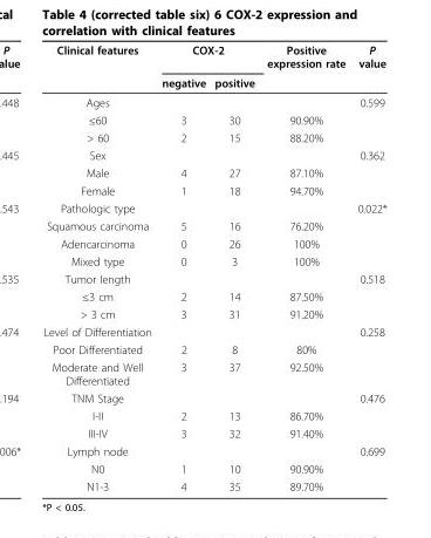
<table><thead><tr><td rowspan="2">Clinical features</td><td colspan="2">COX-2</td><td rowspan="2">Positive expression rate</td><td rowspan="2">P value</td></tr><tr><td>negative</td><td>positive</td></tr></thead><tbody><tr><td>Ages</td><td></td><td></td><td></td><td>0.599</td></tr><tr><td>≤60</td><td>3</td><td>30</td><td>90.90%</td><td></td></tr><tr><td>&gt; 60</td><td>2</td><td>15</td><td>88.20%</td><td></td></tr><tr><td>Sex</td><td></td><td></td><td></td><td>0.362</td></tr><tr><td>Male</td><td>4</td><td>27</td><td>87.10%</td><td></td></tr><tr><td>Female</td><td>1</td><td>18</td><td>94.70%</td><td></td></tr><tr><td>Pathologic type</td><td></td><td></td><td></td><td>0.022*</td></tr><tr><td>Squamous carcinoma</td><td>5</td><td>16</td><td>76.20%</td><td></td></tr><tr><td>Adencarcinoma</td><td>0</td><td>26</td><td>100%</td><td></td></tr><tr><td>Mixed type</td><td>0</td><td>3</td><td>100%</td><td></td></tr><tr><td>Tumor length</td><td></td><td></td><td></td><td>0.518</td></tr><tr><td>≤3 cm</td><td>2</td><td>14</td><td>87.50%</td><td></td></tr><tr><td>&gt; 3 cm</td><td>3</td><td>31</td><td>91.20%</td><td></td></tr><tr><td>Level of Differentiation</td><td></td><td></td><td></td><td>0.258</td></tr><tr><td>Poor Differentiated</td><td>2</td><td>8</td><td>80%</td><td></td></tr><tr><td>Moderate and Well Differentiated</td><td>3</td><td>37</td><td>92.50%</td><td></td></tr><tr><td>TNM Stage</td><td></td><td></td><td></td><td>0.476</td></tr><tr><td>I-II</td><td>2</td><td>13</td><td>86.70%</td><td></td></tr><tr><td>III-IV</td><td>3</td><td>32</td><td>91.40%</td><td></td></tr><tr><td>Lymph node</td><td></td><td></td><td></td><td>0.699</td></tr><tr><td>N0</td><td>1</td><td>10</td><td>90.90%</td><td></td></tr><tr><td>N1-3</td><td>4</td><td>35</td><td>89.70%</td><td></td></tr></tbody></table>